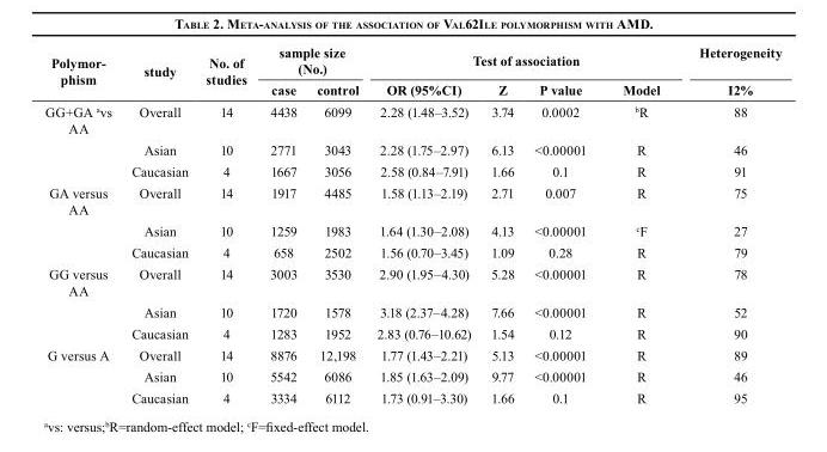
<table><thead><tr><td rowspan="2">Polymor- phism</td><td rowspan="2">study</td><td rowspan="2">No. of studies</td><td colspan="2">sample size (No.)</td><td colspan="4">Test of association</td><td rowspan="2">Heterogeneity I2%</td></tr><tr><td>case</td><td>control</td><td>OR (95%CI)</td><td>Z</td><td>P value</td><td>Model</td></tr></thead><tbody><tr><td rowspan="3">GG+GA <sup>a</sup>vs AA</td><td>Overall</td><td>14</td><td>4438</td><td>6099</td><td>2.28 (1.48–3.52)</td><td>3.74</td><td>0.0002</td><td><sup>b</sup>R</td><td>88</td></tr><tr><td>Asian</td><td>10</td><td>2771</td><td>3043</td><td>2.28 (1.75–2.97)</td><td>6.13</td><td>&lt;0.00001</td><td>R</td><td>46</td></tr><tr><td>Caucasian</td><td>4</td><td>1667</td><td>3056</td><td>2.58 (0.84–7.91)</td><td>1.66</td><td>0.1</td><td>R</td><td>91</td></tr><tr><td rowspan="3">GA versus AA</td><td>Overall</td><td>14</td><td>1917</td><td>4485</td><td>1.58 (1.13–2.19)</td><td>2.71</td><td>0.007</td><td>R</td><td>75</td></tr><tr><td>Asian</td><td>10</td><td>1259</td><td>1983</td><td>1.64 (1.30–2.08)</td><td>4.13</td><td>&lt;0.00001</td><td><sup>c</sup>F</td><td>27</td></tr><tr><td>Caucasian</td><td>4</td><td>658</td><td>2502</td><td>1.56 (0.70–3.45)</td><td>1.09</td><td>0.28</td><td>R</td><td>79</td></tr><tr><td rowspan="3">GG versus AA</td><td>Overall</td><td>14</td><td>3003</td><td>3530</td><td>2.90 (1.95–4.30)</td><td>5.28</td><td>&lt;0.00001</td><td>R</td><td>78</td></tr><tr><td>Asian</td><td>10</td><td>1720</td><td>1578</td><td>3.18 (2.37–4.28)</td><td>7.66</td><td>&lt;0.00001</td><td>R</td><td>52</td></tr><tr><td>Caucasian</td><td>4</td><td>1283</td><td>1952</td><td>2.83 (0.76–10.62)</td><td>1.54</td><td>0.12</td><td>R</td><td>90</td></tr><tr><td rowspan="3">G versus A</td><td>Overall</td><td>14</td><td>8876</td><td>12,198</td><td>1.77 (1.43–2.21)</td><td>5.13</td><td>&lt;0.00001</td><td>R</td><td>89</td></tr><tr><td>Asian</td><td>10</td><td>5542</td><td>6086</td><td>1.85 (1.63–2.09)</td><td>9.77</td><td>&lt;0.00001</td><td>R</td><td>46</td></tr><tr><td>Caucasian</td><td>4</td><td>3334</td><td>6112</td><td>1.73 (0.91–3.30)</td><td>1.66</td><td>0.1</td><td>R</td><td>95</td></tr></tbody></table>